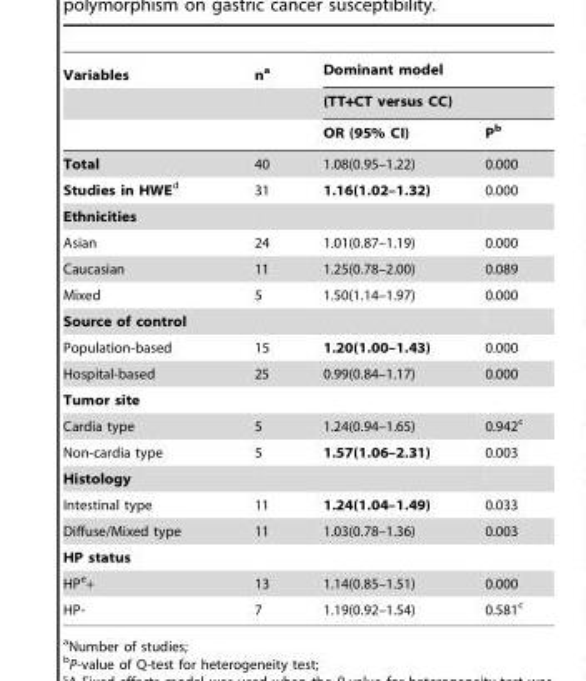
<table><thead><tr><td rowspan="3">Variables</td><td rowspan="3">n<sup>a</sup></td><td rowspan="2" colspan="2">Dominant model (TT+CT versus CC)</td></tr><tr></tr><tr><td>OR (95% CI)</td><td>P<sup>b</sup></td></tr></thead><tbody><tr><td>Total</td><td>40</td><td>1.08(0.95–1.22)</td><td>0.000</td></tr><tr><td>Studies in HWEd</td><td>31</td><td>1.16(1.02–1.32)</td><td>0.000</td></tr><tr><td colspan="4">Ethnicities</td></tr><tr><td>Asian</td><td>24</td><td>1.01(0.87–1.19)</td><td>0.000</td></tr><tr><td>Caucasian</td><td>11</td><td>1.25(0.78–2.00)</td><td>0.089</td></tr><tr><td>Mixed</td><td>5</td><td>1.50(1.14–1.97)</td><td>0.000</td></tr><tr><td colspan="4">Source of control</td></tr><tr><td>Population-based</td><td>15</td><td>1.20(1.00–1.43)</td><td>0.000</td></tr><tr><td>Hospital-based</td><td>25</td><td>0.99(0.84–1.17)</td><td>0.000</td></tr><tr><td colspan="4">Tumor site</td></tr><tr><td>Cardia type</td><td>5</td><td>1.24(0.94–1.65)</td><td>0.942<sup>c</sup></td></tr><tr><td>Non-cardia type</td><td>5</td><td>1.57(1.06–2.31)</td><td>0.003</td></tr><tr><td colspan="4">Histology</td></tr><tr><td>Intestinal type</td><td>11</td><td>1.24(1.04–1.49)</td><td>0.033</td></tr><tr><td>Diffuse/Mixed type</td><td>11</td><td>1.03(0.78–1.36)</td><td>0.003</td></tr><tr><td colspan="4">HP status</td></tr><tr><td>HP<sup>e</sup>+</td><td>13</td><td>1.14(0.85–1.51)</td><td>0.000</td></tr><tr><td>HP-</td><td>7</td><td>1.19(0.92–1.54)</td><td>0.581<sup>c</sup></td></tr></tbody></table>